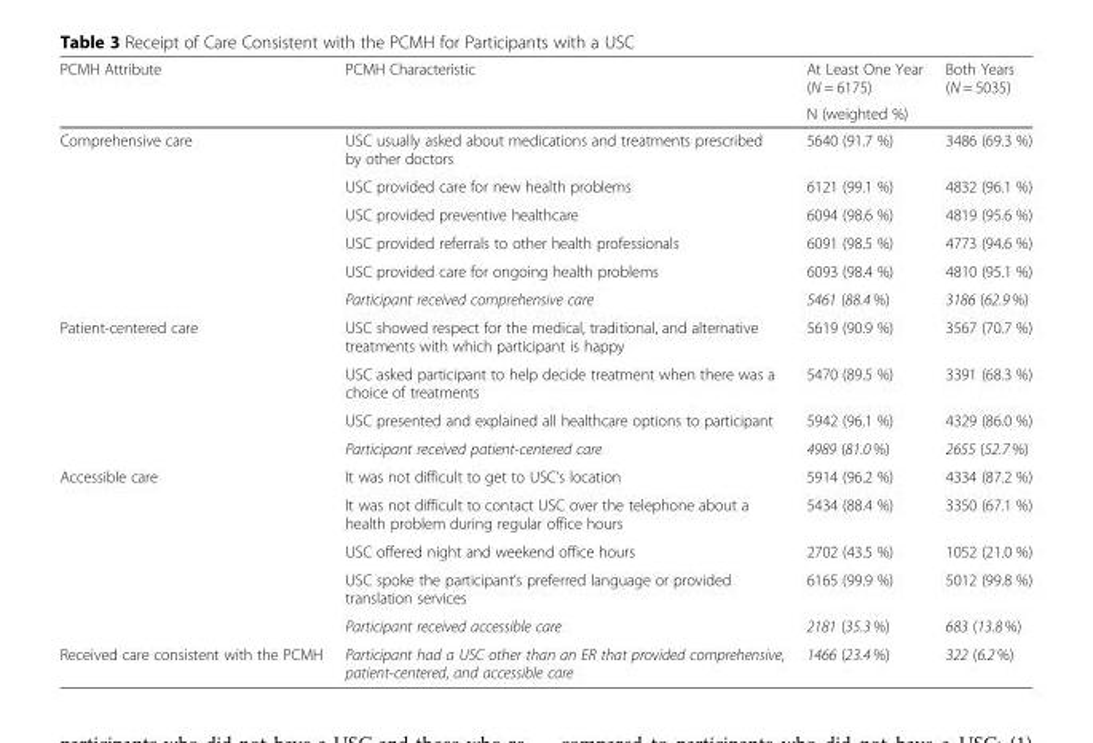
<table><thead><tr><td rowspan="2">PCMH Attribute</td><td rowspan="2">PCMH Characteristic</td><td>At Least One Year (N = 6175)</td><td>Both Years (N = 5035)</td></tr><tr><td colspan="2">N (weighted %)</td></tr></thead><tbody><tr><td rowspan="6">Comprehensive care</td><td>USC usually asked about medications and treatments prescribed by other doctors</td><td>5640 (91.7 %)</td><td>3486 (69.3 %)</td></tr><tr><td>USC provided care for new health problems</td><td>6121 (99.1 %)</td><td>4832 (96.1 %)</td></tr><tr><td>USC provided preventive healthcare</td><td>6094 (98.6 %)</td><td>4819 (95.6 %)</td></tr><tr><td>USC provided referrals to other health professionals</td><td>6091 (98.5 %)</td><td>4773 (94.6 %)</td></tr><tr><td>USC provided care for ongoing health problems</td><td>6093 (98.4 %)</td><td>4810 (95.1 %)</td></tr><tr><td>Participant received comprehensive care</td><td>5461 (88.4 %)</td><td>3186 (62.9 %)</td></tr><tr><td rowspan="4">Patient-centered care</td><td>USC showed respect for the medical, traditional, and alternative treatments with which participant is happy</td><td>5619 (90.9 %)</td><td>3567 (70.7 %)</td></tr><tr><td>USC asked participant to help decide treatment when there was a choice of treatments</td><td>5470 (89.5 %)</td><td>3391 (68.3 %)</td></tr><tr><td>USC presented and explained all healthcare options to participant</td><td>5942 (96.1 %)</td><td>4329 (86.0 %)</td></tr><tr><td>Participant received patient-centered care</td><td>4989 (81.0 %)</td><td>2655 (52.7 %)</td></tr><tr><td rowspan="5">Accessible care</td><td>It was not difficult to get to USC’s location</td><td>5914 (96.2 %)</td><td>4334 (87.2 %)</td></tr><tr><td>It was not difficult to contact USC over the telephone about a health problem during regular office hours</td><td>5434 (88.4 %)</td><td>3350 (67.1 %)</td></tr><tr><td>USC offered night and weekend office hours</td><td>2702 (43.5 %)</td><td>1052 (21.0 %)</td></tr><tr><td>USC spoke the participant’s preferred language or provided translation services</td><td>6165 (99.9 %)</td><td>5012 (99.8 %)</td></tr><tr><td>Participant received accessible care</td><td>2181 (35.3 %)</td><td>683 (13.8 %)</td></tr><tr><td>Received care consistent with the PCMH</td><td>Participant had a USC other than an ER that provided comprehensive, patient-centered, and accessible care</td><td>1466 (23.4 %)</td><td>322 (6.2 %)</td></tr></tbody></table>